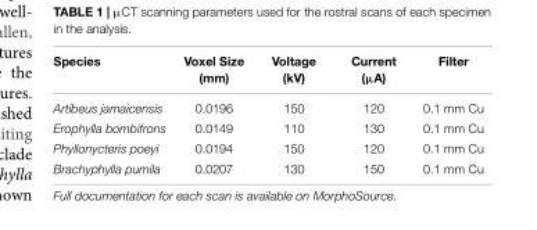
<table><thead><tr><td>Species</td><td>Voxel Size (mm)</td><td>Voltage (kV)</td><td>Current (µA)</td><td>Filter</td></tr></thead><tbody><tr><td>Artibeus jamaicensis</td><td>0.0196</td><td>150</td><td>120</td><td>0.1 mm Cu</td></tr><tr><td>Erophylla bombifrons</td><td>0.0149</td><td>110</td><td>130</td><td>0.1 mm Cu</td></tr><tr><td>Phyllonycteris poeyi</td><td>0.0194</td><td>150</td><td>120</td><td>0.1 mm Cu</td></tr><tr><td>Brachyphylla pumila</td><td>0.0207</td><td>130</td><td>150</td><td>0.1 mm Cu</td></tr></tbody></table>